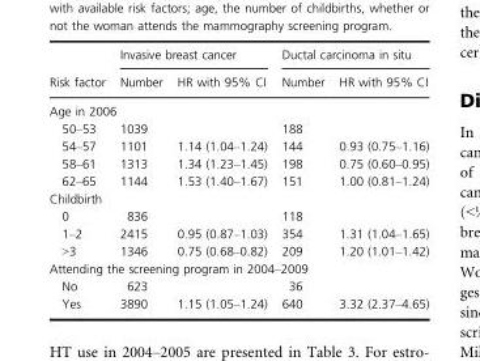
<table><thead><tr><td rowspan="2">Risk factor</td><td colspan="2">Invasive breast cancer</td><td colspan="2">Ductal carcinoma in situ</td></tr><tr><td>Number</td><td>HR with 95% CI</td><td>Number</td><td>HR with 95% CI</td></tr></thead><tbody><tr><td colspan="5">Age in 2006</td></tr><tr><td>50–53</td><td>1039</td><td></td><td>188</td><td></td></tr><tr><td>54–57</td><td>1101</td><td>1.14 (1.04–1.24)</td><td>144</td><td>0.93 (0.75–1.16)</td></tr><tr><td>58–61</td><td>1313</td><td>1.34 (1.23–1.45)</td><td>198</td><td>0.75 (0.60–0.95)</td></tr><tr><td>62–65</td><td>1144</td><td>1.53 (1.40–1.67)</td><td>151</td><td>1.00 (0.81–1.24)</td></tr><tr><td colspan="5">Childbirth</td></tr><tr><td>0</td><td>836</td><td></td><td>118</td><td></td></tr><tr><td>1–2</td><td>2415</td><td>0.95 (0.87–1.03)</td><td>354</td><td>1.31 (1.04–1.65)</td></tr><tr><td>&gt;3</td><td>1346</td><td>0.75 (0.68–0.82)</td><td>209</td><td>1.20 (1.01–1.42)</td></tr><tr><td colspan="5">Attending the screening program in 2004–2009</td></tr><tr><td>No</td><td>623</td><td></td><td>36</td><td></td></tr><tr><td>Yes</td><td>3890</td><td>1.15 (1.05–1.24)</td><td>640</td><td>3.32 (2.37–4.65)</td></tr></tbody></table>